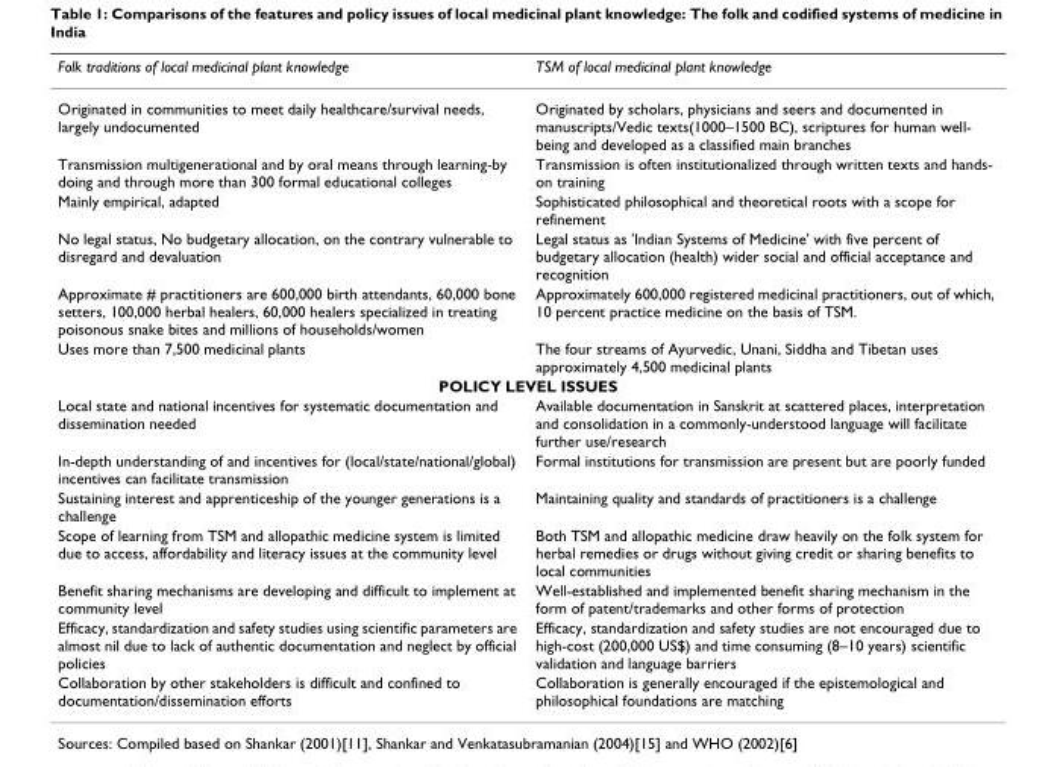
<table><thead><tr><td>Folk traditions of local medicinal plant knowledge</td><td>TSM of local medicinal plant knowledge</td></tr></thead><tbody><tr><td>Originated in communities to meet daily healthcare/survival needs, largely undocumented</td><td>Originated by scholars, physicians and seers and documented in manuscripts/Vedic texts(1000–1500 BC), scriptures for human well- being and developed as a classified main branches</td></tr><tr><td>Transmission multigenerational and by oral means through learning-by doing and through more than 300 formal educational colleges</td><td>Transmission is often institutionalized through written texts and hands- on training</td></tr><tr><td>Mainly empirical, adapted</td><td>Sophisticated philosophical and theoretical roots with a scope for refinement</td></tr><tr><td>No legal status, No budgetary allocation, on the contrary vulnerable to disregard and devaluation</td><td>Legal status as &#x27;Indian Systems of Medicine&#x27; with five percent of budgetary allocation (health) wider social and official acceptance and recognition</td></tr><tr><td>Approximate # practitioners are 600,000 birth attendants, 60,000 bone setters, 100,000 herbal healers, 60,000 healers specialized in treating poisonous snake bites and millions of households/women</td><td>Approximately 600,000 registered medicinal practitioners, out of which, 10 percent practice medicine on the basis of TSM.</td></tr><tr><td>Uses more than 7,500 medicinal plants</td><td>The four streams of Ayurvedic, Unani, Siddha and Tibetan uses approximately 4,500 medicinal plants</td></tr><tr><td colspan="2">POLICY LEVEL ISSUES</td></tr><tr><td>Local state and national incentives for systematic documentation and dissemination needed</td><td>Available documentation in Sanskrit at scattered places, interpretation and consolidation in a commonly-understood language will facilitate further use/research</td></tr><tr><td>In-depth understanding of and incentives for (local/state/national/global) incentives can facilitate transmission</td><td>Formal institutions for transmission are present but are poorly funded</td></tr><tr><td>Sustaining interest and apprenticeship of the younger generations is a challenge</td><td>Maintaining quality and standards of practitioners is a challenge</td></tr><tr><td>Scope of learning from TSM and allopathic medicine system is limited due to access, affordability and literacy issues at the community level</td><td>Both TSM and allopathic medicine draw heavily on the folk system for herbal remedies or drugs without giving credit or sharing benefits to local communities</td></tr><tr><td>Benefit sharing mechanisms are developing and difficult to implement at community level</td><td>Well-established and implemented benefit sharing mechanism in the form of patent/trademarks and other forms of protection</td></tr><tr><td>Efficacy, standardization and safety studies using scientific parameters are almost nil due to lack of authentic documentation and neglect by official policies</td><td>Efficacy, standardization and safety studies are not encouraged due to high-cost (200,000 US$) and time consuming (8–10 years) scientific validation and language barriers</td></tr><tr><td>Collaboration by other stakeholders is difficult and confined to documentation/dissemination efforts</td><td>Collaboration is generally encouraged if the epistemological and philosophical foundations are matching</td></tr></tbody></table>